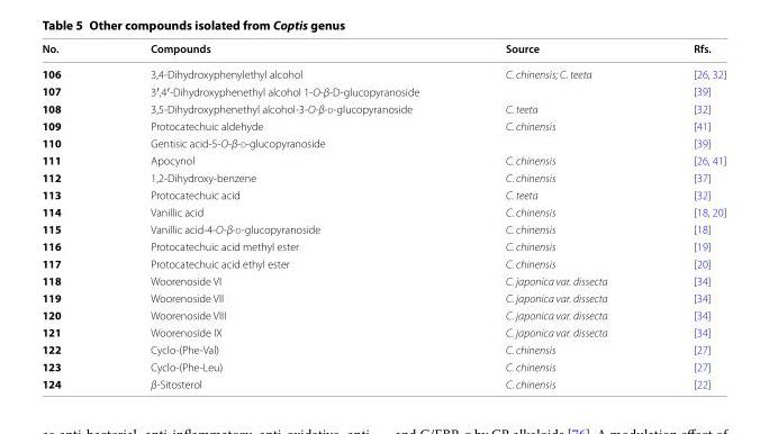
<table><thead><tr><td>No.</td><td>Compounds</td><td>Source</td><td>Rfs.</td></tr></thead><tbody><tr><td>106</td><td>3,4‑Dihydroxyphenylethyl alcohol</td><td>C. chinensis; C. teeta</td><td>[26, 32]</td></tr><tr><td>107</td><td>3′,4′‑Dihydroxyphenethyl alcohol 1‑O‑β‑D‑glucopyranoside</td><td></td><td>[39]</td></tr><tr><td>108</td><td>3,5‑Dihydroxyphenethyl alcohol‑3‑O‑β‑d‑glucopyranoside</td><td>C. teeta</td><td>[32]</td></tr><tr><td>109</td><td>Protocatechuic aldehyde</td><td>C. chinensis</td><td>[41]</td></tr><tr><td>110</td><td>Gentisic acid‑5‑O‑β‑d‑glucopyranoside</td><td></td><td>[39]</td></tr><tr><td>111</td><td>Apocynol</td><td>C. chinensis</td><td>[26, 41]</td></tr><tr><td>112</td><td>1,2‑Dihydroxy‑benzene</td><td>C. chinensis</td><td>[37]</td></tr><tr><td>113</td><td>Protocatechuic acid</td><td>C. teeta</td><td>[32]</td></tr><tr><td>114</td><td>Vanillic acid</td><td>C. chinensis</td><td>[18, 20]</td></tr><tr><td>115</td><td>Vanillic acid‑4‑O‑β‑d‑glucopyranoside</td><td>C. chinensis</td><td>[18]</td></tr><tr><td>116</td><td>Protocatechuic acid methyl ester</td><td>C. chinensis</td><td>[19]</td></tr><tr><td>117</td><td>Protocatechuic acid ethyl ester</td><td>C. chinensis</td><td>[20]</td></tr><tr><td>118</td><td>Woorenoside VI</td><td>C. japonica var. dissecta</td><td>[34]</td></tr><tr><td>119</td><td>Woorenoside VII</td><td>C. japonica var. dissecta</td><td>[34]</td></tr><tr><td>120</td><td>Woorenoside VIII</td><td>C. japonica var. dissecta</td><td>[34]</td></tr><tr><td>121</td><td>Woorenoside IX</td><td>C. japonica var. dissecta</td><td>[34]</td></tr><tr><td>122</td><td>Cyclo‑(Phe‑Val)</td><td>C. chinensis</td><td>[27]</td></tr><tr><td>123</td><td>Cyclo‑(Phe‑Leu)</td><td>C. chinensis</td><td>[27]</td></tr><tr><td>124</td><td>β‑Sitosterol</td><td>C. chinensis</td><td>[22]</td></tr></tbody></table>